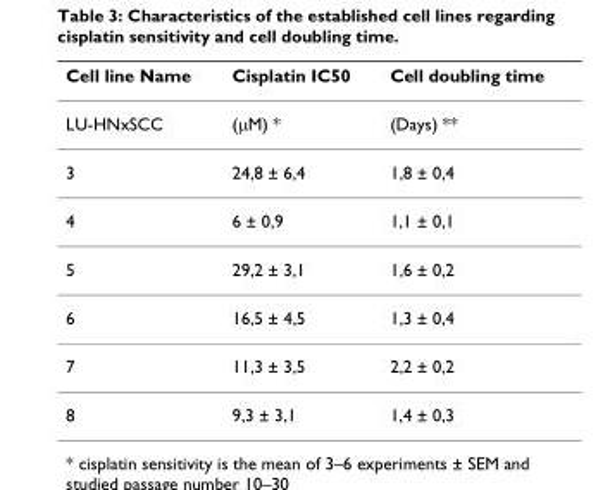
<table><thead><tr><td>Cell line Name</td><td>Cisplatin IC50</td><td>Cell doubling time</td></tr></thead><tbody><tr><td>LU-HNxSCC</td><td>(μM) *</td><td>(Days) **</td></tr><tr><td>3</td><td>24,8 ± 6,4</td><td>1,8 ± 0,4</td></tr><tr><td>4</td><td>6 ± 0,9</td><td>1,1 ± 0,1</td></tr><tr><td>5</td><td>29,2 ± 3,1</td><td>1,6 ± 0,2</td></tr><tr><td>6</td><td>16,5 ± 4,5</td><td>1,3 ± 0,4</td></tr><tr><td>7</td><td>11,3 ± 3,5</td><td>2,2 ± 0,2</td></tr><tr><td>8</td><td>9,3 ± 3,1</td><td>1,4 ± 0,3</td></tr></tbody></table>